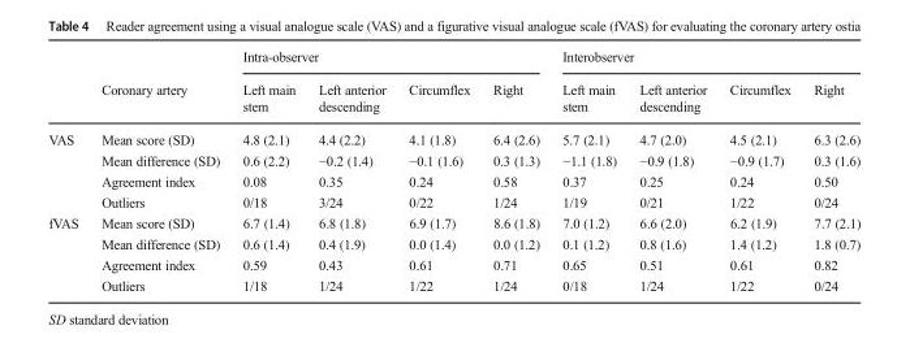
<table><thead><tr><td rowspan="2"></td><td rowspan="2">Coronary artery</td><td colspan="4">Intra-observer</td><td colspan="4">Interobserver</td></tr><tr><td>Left main stem</td><td>Left anterior descending</td><td>Circumflex</td><td>Right</td><td>Left main stem</td><td>Left anterior descending</td><td>Circumflex</td><td>Right</td></tr></thead><tbody><tr><td rowspan="4">VAS</td><td>Mean score (SD)</td><td>4.8 (2.1)</td><td>4.4 (2.2)</td><td>4.1 (1.8)</td><td>6.4 (2.6)</td><td>5.7 (2.1)</td><td>4.7 (2.0)</td><td>4.5 (2.1)</td><td>6.3 (2.6)</td></tr><tr><td>Mean difference (SD)</td><td>0.6 (2.2)</td><td>−0.2 (1.4)</td><td>−0.1 (1.6)</td><td>0.3 (1.3)</td><td>−1.1 (1.8)</td><td>−0.9 (1.8)</td><td>−0.9 (1.7)</td><td>0.3 (1.6)</td></tr><tr><td>Agreement index</td><td>0.08</td><td>0.35</td><td>0.24</td><td>0.58</td><td>0.37</td><td>0.25</td><td>0.24</td><td>0.50</td></tr><tr><td>Outliers</td><td>0/18</td><td>3/24</td><td>0/22</td><td>1/24</td><td>1/19</td><td>0/21</td><td>1/22</td><td>0/24</td></tr><tr><td rowspan="4">fVAS</td><td>Mean score (SD)</td><td>6.7 (1.4)</td><td>6.8 (1.8)</td><td>6.9 (1.7)</td><td>8.6 (1.8)</td><td>7.0 (1.2)</td><td>6.6 (2.0)</td><td>6.2 (1.9)</td><td>7.7 (2.1)</td></tr><tr><td>Mean difference (SD)</td><td>0.6 (1.4)</td><td>0.4 (1.9)</td><td>0.0 (1.4)</td><td>0.0 (1.2)</td><td>0.1 (1.2)</td><td>0.8 (1.6)</td><td>1.4 (1.2)</td><td>1.8 (0.7)</td></tr><tr><td>Agreement index</td><td>0.59</td><td>0.43</td><td>0.61</td><td>0.71</td><td>0.65</td><td>0.51</td><td>0.61</td><td>0.82</td></tr><tr><td>Outliers</td><td>1/18</td><td>1/24</td><td>1/22</td><td>1/24</td><td>0/18</td><td>1/24</td><td>1/22</td><td>0/24</td></tr></tbody></table>